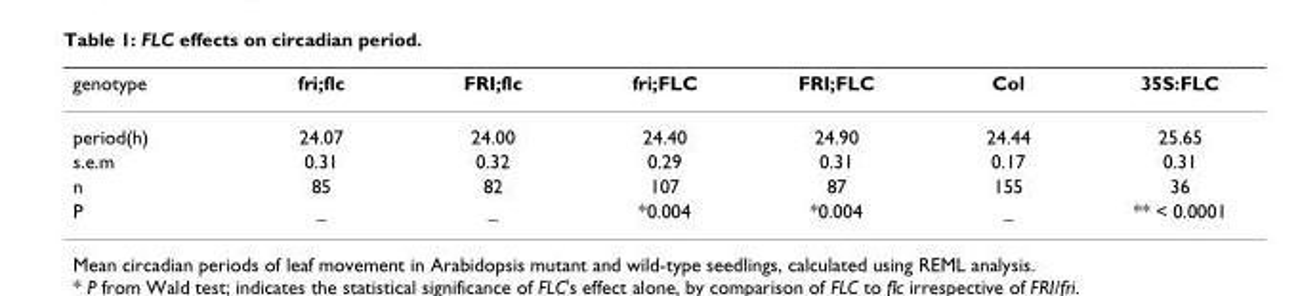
<table><thead><tr><td>genotype</td><td>fri;flc</td><td>FRI;flc</td><td>fri;FLC</td><td>FRI;FLC</td><td>Col</td><td>35S:FLC</td></tr></thead><tbody><tr><td>period(h)</td><td>24.07</td><td>24.00</td><td>24.40</td><td>24.90</td><td>24.44</td><td>25.65</td></tr><tr><td>s.e.m</td><td>0.31</td><td>0.32</td><td>0.29</td><td>0.31</td><td>0.17</td><td>0.31</td></tr><tr><td>n</td><td>85</td><td>82</td><td>107</td><td>87</td><td>155</td><td>36</td></tr><tr><td>P</td><td>_</td><td>_</td><td>*0.004</td><td>*0.004</td><td>_</td><td>** &lt; 0.0001</td></tr></tbody></table>